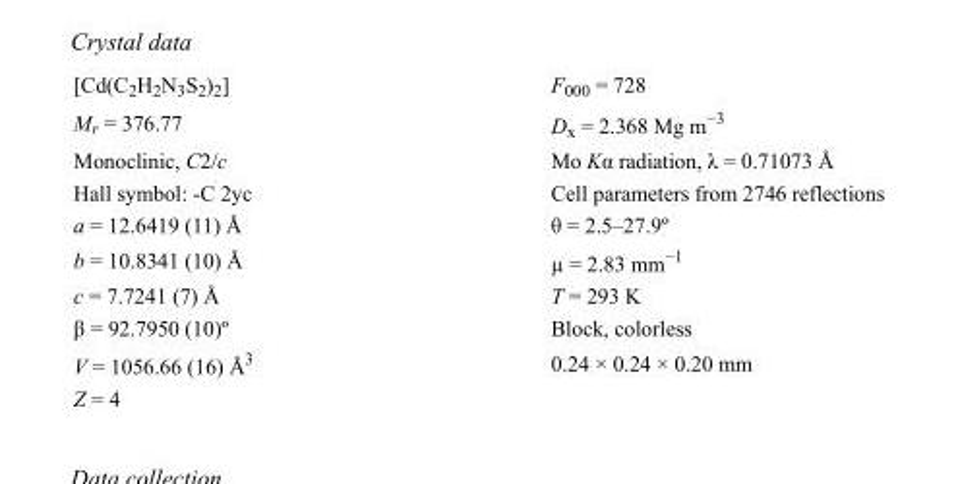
<table><tbody><tr><td>[Cd(C<sub>2</sub>H<sub>2</sub>N<sub>3</sub>S<sub>2</sub>)<sub>2</sub>]</td><td>F000 = 728</td></tr><tr><td>M<sub>r</sub> = 376.77</td><td>D<sub>x</sub> = 2.368 Mg m<sup>−3</sup></td></tr><tr><td>Monoclinic, C2/c</td><td>Mo Kα radiation, λ = 0.71073 Å</td></tr><tr><td>Hall symbol: -C 2yc</td><td>Cell parameters from 2746 reflections</td></tr><tr><td>a = 12.6419 (11) Å</td><td>θ = 2.5–27.9º</td></tr><tr><td>b = 10.8341 (10) Å</td><td>µ = 2.83 mm<sup>−1</sup></td></tr><tr><td>c = 7.7241 (7) Å</td><td>T = 293 K</td></tr><tr><td>β = 92.7950 (10)º</td><td>Block, colorless</td></tr><tr><td>V = 1056.66 (16) Å<sup>3</sup></td><td>0.24 × 0.24 × 0.20 mm</td></tr><tr><td>Z = 4</td><td></td></tr></tbody></table>